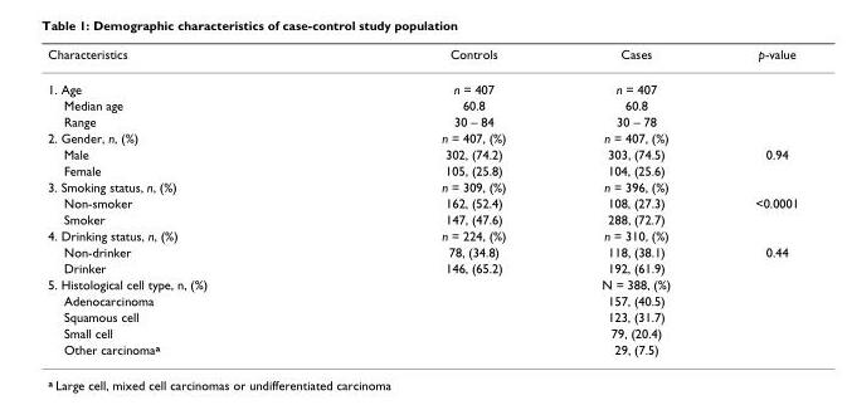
<table><thead><tr><td>Characteristics</td><td>Controls</td><td>Cases</td><td>p-value</td></tr></thead><tbody><tr><td>1. Age</td><td>n = 407</td><td>n = 407</td><td></td></tr><tr><td>Median age</td><td>60.8</td><td>60.8</td><td></td></tr><tr><td>Range</td><td>30 – 84</td><td>30 – 78</td><td></td></tr><tr><td>2. Gender, n, (%)</td><td>n = 407, (%)</td><td>n = 407, (%)</td><td></td></tr><tr><td>Male</td><td>302, (74.2)</td><td>303, (74.5)</td><td>0.94</td></tr><tr><td>Female</td><td>105, (25.8)</td><td>104, (25.6)</td><td></td></tr><tr><td>3. Smoking status, n, (%)</td><td>n = 309, (%)</td><td>n = 396, (%)</td><td></td></tr><tr><td>Non-smoker</td><td>162, (52.4)</td><td>108, (27.3)</td><td>&lt;0.0001</td></tr><tr><td>Smoker</td><td>147, (47.6)</td><td>288, (72.7)</td><td></td></tr><tr><td>4. Drinking status, n, (%)</td><td>n = 224, (%)</td><td>n = 310, (%)</td><td></td></tr><tr><td>Non-drinker</td><td>78, (34.8)</td><td>118, (38.1)</td><td>0.44</td></tr><tr><td>Drinker</td><td>146, (65.2)</td><td>192, (61.9)</td><td></td></tr><tr><td>5. Histological cell type, n, (%)</td><td></td><td>N = 388, (%)</td><td></td></tr><tr><td>Adenocarcinoma</td><td></td><td>157, (40.5)</td><td></td></tr><tr><td>Squamous cell</td><td></td><td>123, (31.7)</td><td></td></tr><tr><td>Small cell</td><td></td><td>79, (20.4)</td><td></td></tr><tr><td>Other carcinoma<sup>a</sup></td><td></td><td>29, (7.5)</td><td></td></tr></tbody></table>